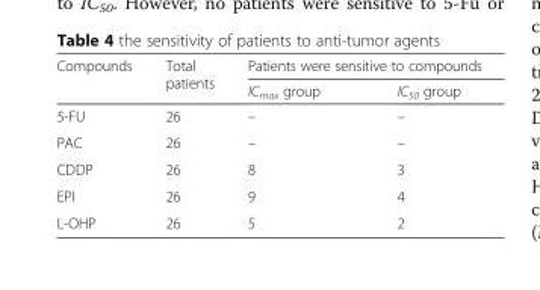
<table><thead><tr><td rowspan="2">Compounds</td><td rowspan="2">Total patients</td><td colspan="2">Patients were sensitive to compounds</td></tr><tr><td>IC<sub>max</sub> group</td><td>IC<sub>50</sub> group</td></tr></thead><tbody><tr><td>5-FU</td><td>26</td><td>–</td><td>–</td></tr><tr><td>PAC</td><td>26</td><td>–</td><td>–</td></tr><tr><td>CDDP</td><td>26</td><td>8</td><td>3</td></tr><tr><td>EPI</td><td>26</td><td>9</td><td>4</td></tr><tr><td>L-OHP</td><td>26</td><td>5</td><td>2</td></tr></tbody></table>